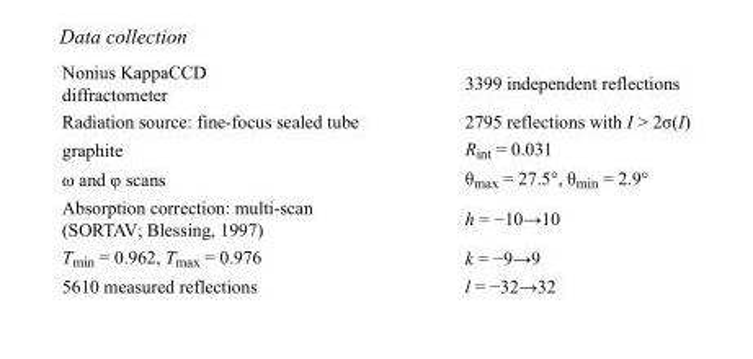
<table><tbody><tr><td>Nonius KappaCCD diffractometer</td><td>3399 independent reflections</td></tr><tr><td>Radiation source: fine-focus sealed tube</td><td>2795 reflections with I &gt; 2σ(I)</td></tr><tr><td>graphite</td><td>R<sub>int</sub> = 0.031</td></tr><tr><td>ω and φ scans</td><td>θ<sub>max</sub> = 27.5°, θ<sub>min</sub> = 2.9°</td></tr><tr><td>Absorption correction: multi-scan (SORTAV; Blessing, 1997)</td><td>h = −10→10</td></tr><tr><td>T<sub>min</sub> = 0.962, T<sub>max</sub> = 0.976</td><td>k = −9→9</td></tr><tr><td>5610 measured reflections</td><td>l = −32→32</td></tr></tbody></table>